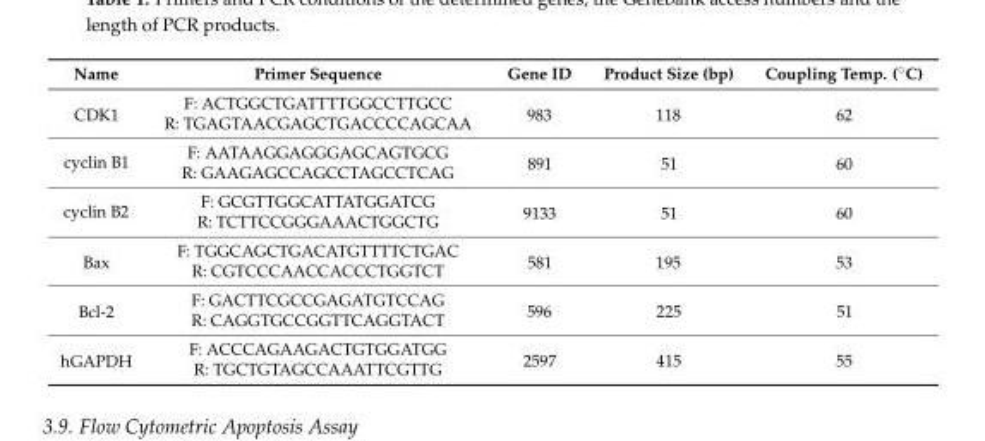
<table><thead><tr><td>Name</td><td>Primer Sequence</td><td>Gene ID</td><td>Product Size (bp)</td><td>Coupling Temp. (˝C)</td></tr></thead><tbody><tr><td rowspan="2">CDK1</td><td>F: ACTGGCTGATTTTGGCCTTGCC</td><td rowspan="2">983</td><td rowspan="2">118</td><td rowspan="2">62</td></tr><tr><td>R: TGAGTAACGAGCTGACCCCAGCAA</td></tr><tr><td rowspan="2">cyclin B1</td><td>F: AATAAGGAGGGAGCAGTGCG</td><td rowspan="2">891</td><td rowspan="2">51</td><td rowspan="2">60</td></tr><tr><td>R: GAAGAGCCAGCCTAGCCTCAG</td></tr><tr><td rowspan="2">cyclin B2</td><td>F: GCGTTGGCATTATGGATCG</td><td rowspan="2">9133</td><td rowspan="2">51</td><td rowspan="2">60</td></tr><tr><td>R: TCTTCCGGGAAACTGGCTG</td></tr><tr><td rowspan="2">Bax</td><td>F: TGGCAGCTGACATGTTTTCTGAC</td><td rowspan="2">581</td><td rowspan="2">195</td><td rowspan="2">53</td></tr><tr><td>R: CGTCCCAACCACCCTGGTCT</td></tr><tr><td rowspan="2">Bcl-2</td><td>F: GACTTCGCCGAGATGTCCAG</td><td rowspan="2">596</td><td rowspan="2">225</td><td rowspan="2">51</td></tr><tr><td>R: CAGGTGCCGGTTCAGGTACT</td></tr><tr><td rowspan="2">hGAPDH</td><td>F: ACCCAGAAGACTGTGGATGG</td><td rowspan="2">2597</td><td rowspan="2">415</td><td rowspan="2">55</td></tr><tr><td>R: TGCTGTAGCCAAATTCGTTG</td></tr></tbody></table>